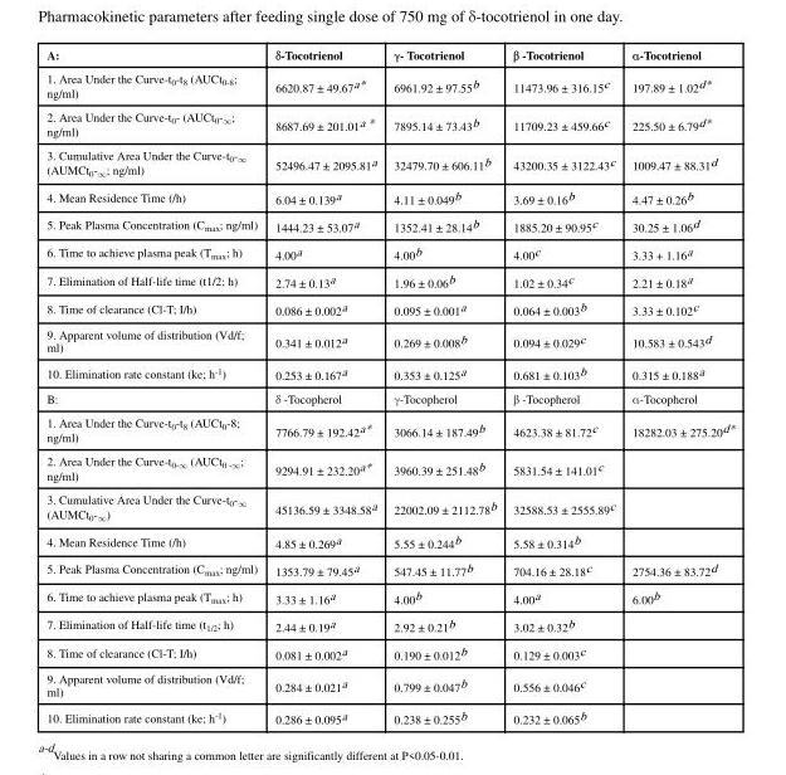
<table><thead><tr><td>A:</td><td>δ-Tocotrienol</td><td>γ- Tocotrienol</td><td>β -Tocotrienol</td><td>α-Tocotrienol</td></tr></thead><tbody><tr><td>1. Area Under the Curve-t<sub>0</sub>-t<sub>8</sub> (AUCt<sub>0-8</sub>; ng/ml)</td><td>6620.87 ± 49.67<sup>a</sup>*</td><td>6961.92 ± 97.55<sup>b</sup></td><td>11473.96 ± 316.15<sup>c</sup></td><td>197.89 ± 1.02<sup>d</sup>*</td></tr><tr><td>2. Area Under the Curve-t<sub>0</sub>- (AUCt<sub>0</sub>-<sub>∞</sub>; ng/ml)</td><td>8687.69 ± 201.01<sup>a</sup> *</td><td>7895.14 ± 73.43<sup>b</sup></td><td>11709.23 ± 459.66<sup>c</sup></td><td>225.50 ± 6.79<sup>d</sup>*</td></tr><tr><td>3. Cumulative Area Under the Curve-t<sub>0</sub>-<sub>∞</sub> (AUMCt<sub>0</sub>-<sub>∞</sub>; ng/ml)</td><td>52496.47 ± 2095.81<sup>a</sup></td><td>32479.70 ± 606.11<sup>b</sup></td><td>43200.35 ± 3122.43<sup>c</sup></td><td>1009.47 ± 88.31<sup>d</sup></td></tr><tr><td>4. Mean Residence Time (/h)</td><td>6.04 ± 0.139<sup>a</sup></td><td>4.11 ± 0.049<sup>b</sup></td><td>3.69 ± 0.16<sup>b</sup></td><td>4.47 ± 0.26<sup>b</sup></td></tr><tr><td>5. Peak Plasma Concentration (C<sub>max</sub>; ng/ml)</td><td>1444.23 ± 53.07<sup>a</sup></td><td>1352.41 ± 28.14<sup>b</sup></td><td>1885.20 ± 90.95<sup>c</sup></td><td>30.25 ± 1.06<sup>d</sup></td></tr><tr><td>6. Time to achieve plasma peak (T<sub>max</sub>; h)</td><td>4.00<sup>a</sup></td><td>4.00<sup>b</sup></td><td>4.00<sup>c</sup></td><td>3.33 + 1.16<sup>a</sup></td></tr><tr><td>7. Elimination of Half-life time (t1/2; h)</td><td>2.74 ± 0.13<sup>a</sup></td><td>1.96 ± 0.06<sup>b</sup></td><td>1.02 ± 0.34<sup>c</sup></td><td>2.21 ± 0.18<sup>a</sup></td></tr><tr><td>8. Time of clearance (Cl-T; I/h)</td><td>0.086 ± 0.002<sup>a</sup></td><td>0.095 ± 0.001<sup>a</sup></td><td>0.064 ± 0.003<sup>b</sup></td><td>3.33 ± 0.102<sup>c</sup></td></tr><tr><td>9. Apparent volume of distribution (Vd/f; ml)</td><td>0.341 ± 0.012<sup>a</sup></td><td>0.269 ± 0.008<sup>b</sup></td><td>0.094 ± 0.029<sup>c</sup></td><td>10.583 ± 0.543<sup>d</sup></td></tr><tr><td>10. Elimination rate constant (ke; h<sup>-1</sup>)</td><td>0.253 ± 0.167<sup>a</sup></td><td>0.353 ± 0.125<sup>a</sup></td><td>0.681 ± 0.103<sup>b</sup></td><td>0.315 ± 0.188<sup>a</sup></td></tr><tr><td>B:</td><td>δ -Tocopherol</td><td>γ-Tocopherol</td><td>β -Tocopherol</td><td>α-Tocopherol</td></tr><tr><td>1. Area Under the Curve-t<sub>0</sub>-t<sub>8</sub> (AUCt<sub>0</sub>-8; ng/ml)</td><td>7766.79 ± 192.42<sup>a</sup>*</td><td>3066.14 ± 187.49<sup>b</sup></td><td>4623.38 ± 81.72<sup>c</sup></td><td>18282.03 ± 275.20<sup>d</sup>*</td></tr><tr><td>2. Area Under the Curve-t<sub>0-∞</sub> (AUCt<sub>0 -∞</sub>; ng/ml)</td><td>9294.91 ± 232.20<sup>a</sup>*</td><td>3960.39 ± 251.48<sup>b</sup></td><td>5831.54 ± 141.01<sup>c</sup></td><td></td></tr><tr><td>3. Cumulative Area Under the Curve-t<sub>0</sub>-<sub>∞</sub> (AUMCt<sub>0</sub>-<sub>∞</sub>)</td><td>45136.59 ± 3348.58<sup>a</sup></td><td>22002.09 ± 2112.78<sup>b</sup></td><td>32588.53 ± 2555.89<sup>c</sup></td><td></td></tr><tr><td>4. Mean Residence Time (/h)</td><td>4.85 ± 0.269<sup>a</sup></td><td>5.55 ± 0.244<sup>b</sup></td><td>5.58 ± 0.314<sup>b</sup></td><td></td></tr><tr><td>5. Peak Plasma Concentration (C<sub>max</sub>; ng/ml)</td><td>1353.79 ± 79.45<sup>a</sup></td><td>547.45 ± 11.77<sup>b</sup></td><td>704.16 ± 28.18<sup>c</sup></td><td>2754.36 ± 83.72<sup>d</sup></td></tr><tr><td>6. Time to achieve plasma peak (T<sub>max</sub>; h)</td><td>3.33 ± 1.16<sup>a</sup></td><td>4.00<sup>b</sup></td><td>4.00<sup>a</sup></td><td>6.00<sup>b</sup></td></tr><tr><td>7. Elimination of Half-life time (t<sub>1/2</sub>; h)</td><td>2.44 ± 0.19<sup>a</sup></td><td>2.92 ± 0.21<sup>b</sup></td><td>3.02 ± 0.32<sup>b</sup></td><td></td></tr><tr><td>8. Time of clearance (Cl-T; I/h)</td><td>0.081 ± 0.002<sup>a</sup></td><td>0.190 ± 0.012<sup>b</sup></td><td>0.129 ± 0.003<sup>c</sup></td><td></td></tr><tr><td>9. Apparent volume of distribution (Vd/f; ml)</td><td>0.284 ± 0.021<sup>a</sup></td><td>0.799 ± 0.047<sup>b</sup></td><td>0.556 ± 0.046<sup>c</sup></td><td></td></tr><tr><td>10. Elimination rate constant (ke; h<sup>-1</sup>)</td><td>0.286 ± 0.095<sup>a</sup></td><td>0.238 ± 0.255<sup>b</sup></td><td>0.232 ± 0.065<sup>b</sup></td><td></td></tr></tbody></table>